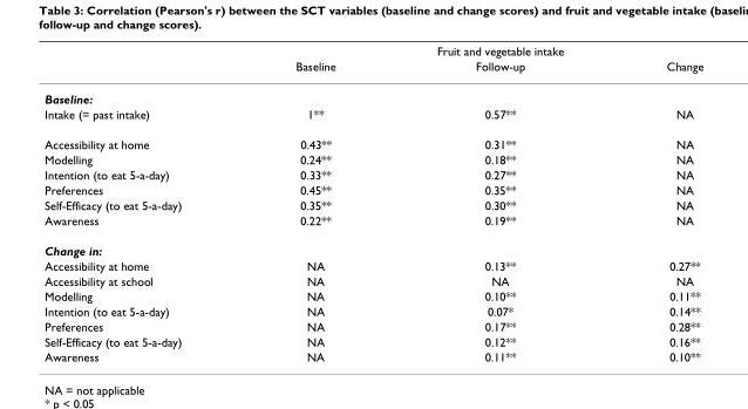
<table><thead><tr><td rowspan="2"></td><td colspan="3">Fruit and vegetable intake</td></tr><tr><td>Baseline</td><td>Follow-up</td><td>Change</td></tr></thead><tbody><tr><td colspan="4">Baseline:</td></tr><tr><td>Intake (= past intake)</td><td>1**</td><td>0.57**</td><td>NA</td></tr><tr><td>Accessibility at home</td><td>0.43**</td><td>0.31**</td><td>NA</td></tr><tr><td>Modelling</td><td>0.24**</td><td>0.18**</td><td>NA</td></tr><tr><td>Intention (to eat 5-a-day)</td><td>0.33**</td><td>0.27**</td><td>NA</td></tr><tr><td>Preferences</td><td>0.45**</td><td>0.35**</td><td>NA</td></tr><tr><td>Self-Efficacy (to eat 5-a-day)</td><td>0.35**</td><td>0.30**</td><td>NA</td></tr><tr><td>Awareness</td><td>0.22**</td><td>0.19**</td><td>NA</td></tr><tr><td colspan="4">Change in:</td></tr><tr><td>Accessibility at home</td><td>NA</td><td>0.13**</td><td>0.27**</td></tr><tr><td>Accessibility at school</td><td>NA</td><td>NA</td><td>NA</td></tr><tr><td>Modelling</td><td>NA</td><td>0.10**</td><td>0.11**</td></tr><tr><td>Intention (to eat 5-a-day)</td><td>NA</td><td>0.07*</td><td>0.14**</td></tr><tr><td>Preferences</td><td>NA</td><td>0.17**</td><td>0.28**</td></tr><tr><td>Self-Efficacy (to eat 5-a-day)</td><td>NA</td><td>0.12**</td><td>0.16**</td></tr><tr><td>Awareness</td><td>NA</td><td>0.11**</td><td>0.10**</td></tr></tbody></table>